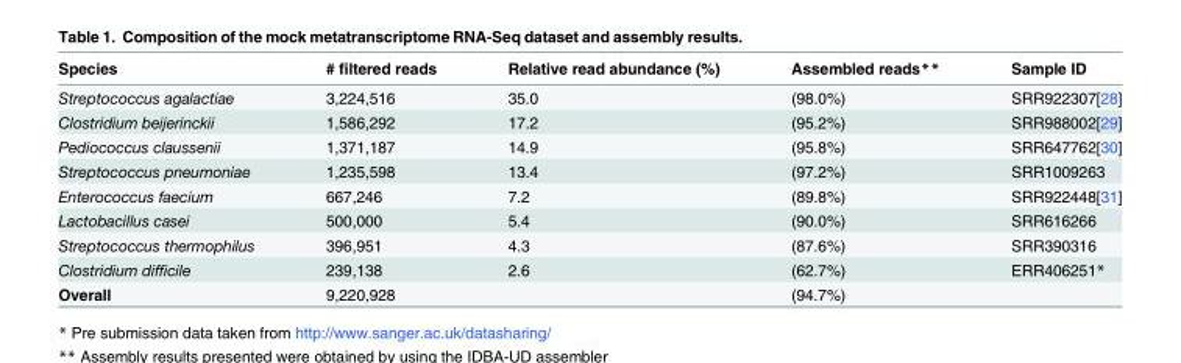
<table><thead><tr><td>Species</td><td># filtered reads</td><td>Relative read abundance (%)</td><td>Assembled reads**</td><td>Sample ID</td></tr></thead><tbody><tr><td>Streptococcus agalactiae</td><td>3,224,516</td><td>35.0</td><td>(98.0%)</td><td>SRR922307[28]</td></tr><tr><td>Clostridium beijerinckii</td><td>1,586,292</td><td>17.2</td><td>(95.2%)</td><td>SRR988002[29]</td></tr><tr><td>Pediococcus claussenii</td><td>1,371,187</td><td>14.9</td><td>(95.8%)</td><td>SRR647762[30]</td></tr><tr><td>Streptococcus pneumoniae</td><td>1,235,598</td><td>13.4</td><td>(97.2%)</td><td>SRR1009263</td></tr><tr><td>Enterococcus faecium</td><td>667,246</td><td>7.2</td><td>(89.8%)</td><td>SRR922448[31]</td></tr><tr><td>Lactobacillus casei</td><td>500,000</td><td>5.4</td><td>(90.0%)</td><td>SRR616266</td></tr><tr><td>Streptococcus thermophilus</td><td>396,951</td><td>4.3</td><td>(87.6%)</td><td>SRR390316</td></tr><tr><td>Clostridium difficile</td><td>239,138</td><td>2.6</td><td>(62.7%)</td><td>ERR406251*</td></tr><tr><td>Overall</td><td>9,220,928</td><td></td><td>(94.7%)</td><td></td></tr></tbody></table>